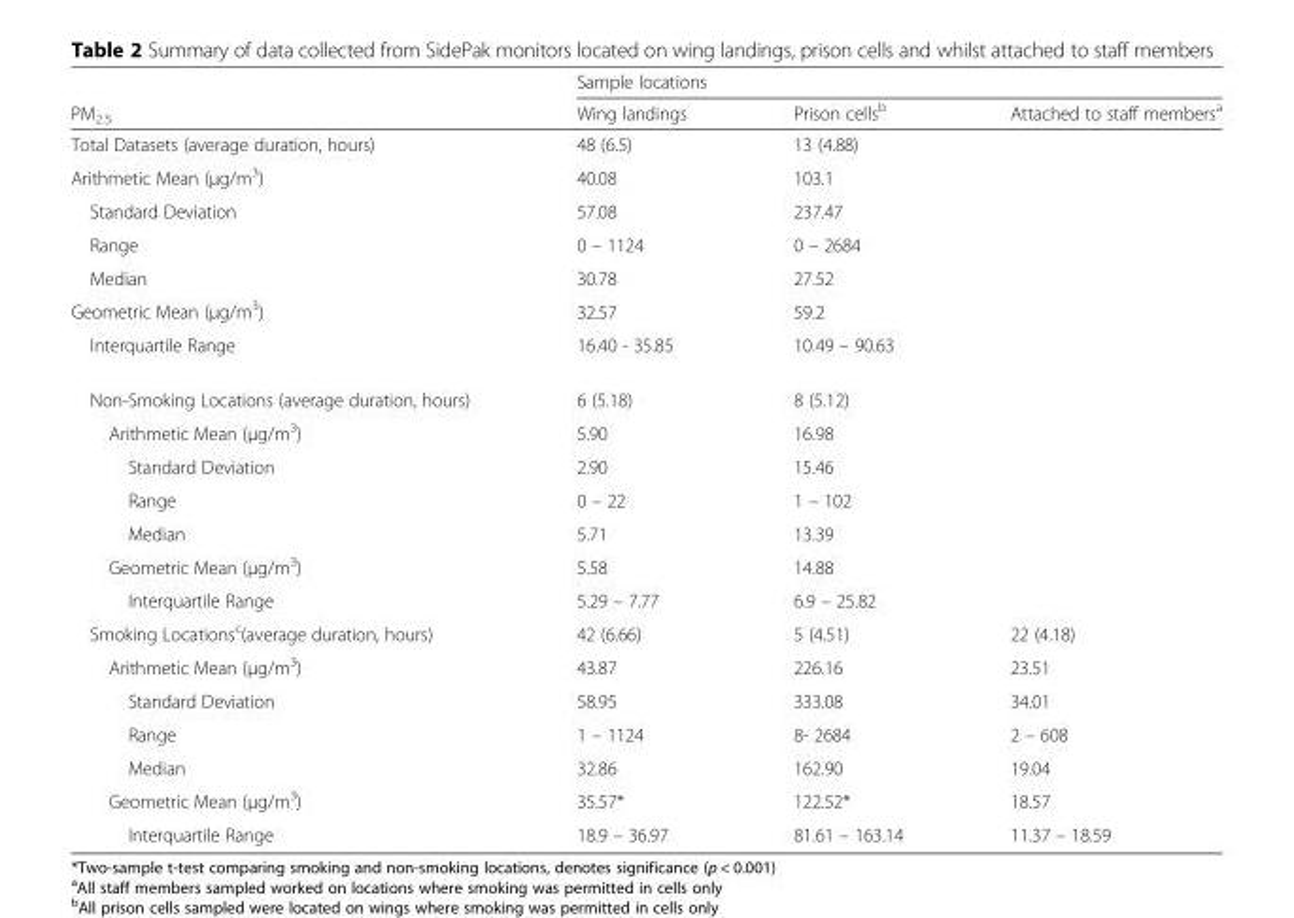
<table><thead><tr><td rowspan="2">PM<sub>2.5</sub></td><td colspan="3">Sample locations</td></tr><tr><td>Wing landings</td><td>Prison cells<sup>b</sup></td><td>Attached to staff members<sup>a</sup></td></tr></thead><tbody><tr><td>Total Datasets (average duration, hours)</td><td>48 (6.5)</td><td>13 (4.88)</td><td rowspan="14"></td></tr><tr><td>Arithmetic Mean (μg/m<sup>3</sup>)</td><td>40.08</td><td>103.1</td></tr><tr><td>Standard Deviation</td><td>57.08</td><td>237.47</td></tr><tr><td>Range</td><td>0 – 1124</td><td>0 – 2684</td></tr><tr><td>Median</td><td>30.78</td><td>27.52</td></tr><tr><td>Geometric Mean (μg/m<sup>3</sup>)</td><td>32.57</td><td>59.2</td></tr><tr><td>Interquartile Range</td><td>16.40 - 35.85</td><td>10.49 – 90.63</td></tr><tr><td>Non-Smoking Locations (average duration, hours)</td><td>6 (5.18)</td><td>8 (5.12)</td></tr><tr><td>Arithmetic Mean (μg/m<sup>3</sup>)</td><td>5.90</td><td>16.98</td></tr><tr><td>Standard Deviation</td><td>2.90</td><td>15.46</td></tr><tr><td>Range</td><td>0 – 22</td><td>1 – 102</td></tr><tr><td>Median</td><td>5.71</td><td>13.39</td></tr><tr><td>Geometric Mean (μg/m<sup>3</sup>)</td><td>5.58</td><td>14.88</td></tr><tr><td>Interquartile Range</td><td>5.29 – 7.77</td><td>6.9 – 25.82</td></tr><tr><td>Smoking Locations<sup>c</sup>(average duration, hours)</td><td>42 (6.66)</td><td>5 (4.51)</td><td>22 (4.18)</td></tr><tr><td>Arithmetic Mean (μg/m<sup>3</sup>)</td><td>43.87</td><td>226.16</td><td>23.51</td></tr><tr><td>Standard Deviation</td><td>58.95</td><td>333.08</td><td>34.01</td></tr><tr><td>Range</td><td>1 – 1124</td><td>8- 2684</td><td>2 – 608</td></tr><tr><td>Median</td><td>32.86</td><td>162.90</td><td>19.04</td></tr><tr><td>Geometric Mean (μg/m<sup>3</sup>)</td><td>35.57*</td><td>122.52*</td><td>18.57</td></tr><tr><td>Interquartile Range</td><td>18.9 – 36.97</td><td>81.61 – 163.14</td><td>11.37 – 18.59</td></tr></tbody></table>